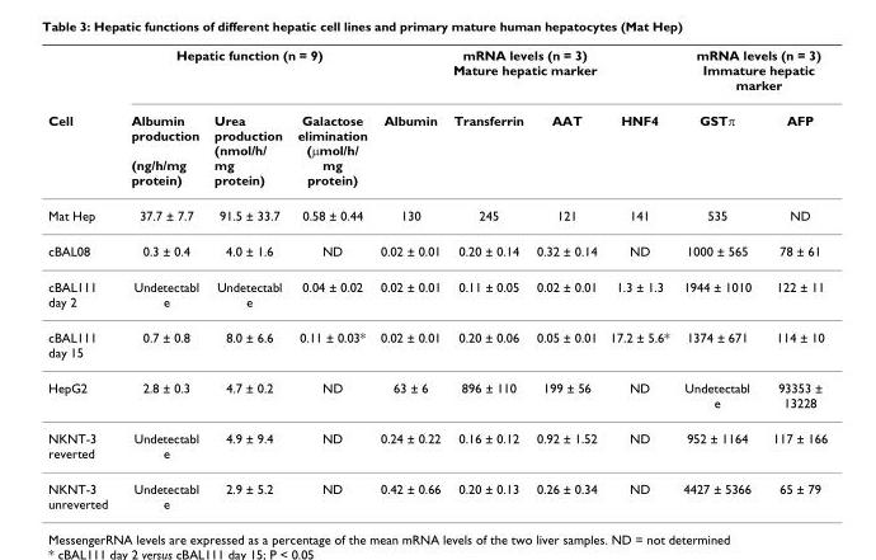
<table><thead><tr><td rowspan="2">Cell</td><td colspan="3">Hepatic function (n = 9)</td><td colspan="4">mRNA levels (n = 3) Mature hepatic marker</td><td colspan="2">mRNA levels (n = 3) Immature hepatic marker</td></tr><tr><td>Albumin production (ng/h/mg protein)</td><td>Urea production (nmol/h/ mg protein)</td><td>Galactose elimination (μmol/h/ mg protein)</td><td>Albumin</td><td>Transferrin</td><td>AAT</td><td>HNF4</td><td>GSTπ</td><td>AFP</td></tr></thead><tbody><tr><td>Mat Hep</td><td>37.7 ± 7.7</td><td>91.5 ± 33.7</td><td>0.58 ± 0.44</td><td>130</td><td>245</td><td>121</td><td>141</td><td>535</td><td>ND</td></tr><tr><td>cBAL08</td><td>0.3 ± 0.4</td><td>4.0 ± 1.6</td><td>ND</td><td>0.02 ± 0.01</td><td>0.20 ± 0.14</td><td>0.32 ± 0.14</td><td>ND</td><td>1000 ± 565</td><td>78 ± 61</td></tr><tr><td>cBAL111 day 2</td><td>Undetectabl e</td><td>Undetectabl e</td><td>0.04 ± 0.02</td><td>0.02 ± 0.01</td><td>0.11 ± 0.05</td><td>0.02 ± 0.01</td><td>1.3 ± 1.3</td><td>1944 ± 1010</td><td>122 ± 11</td></tr><tr><td>cBAL111 day 15</td><td>0.7 ± 0.8</td><td>8.0 ± 6.6</td><td>0.11 ± 0.03*</td><td>0.02 ± 0.01</td><td>0.20 ± 0.06</td><td>0.05 ± 0.01</td><td>17.2 ± 5.6*</td><td>1374 ± 671</td><td>114 ± 10</td></tr><tr><td>HepG2</td><td>2.8 ± 0.3</td><td>4.7 ± 0.2</td><td>ND</td><td>63 ± 6</td><td>896 ± 110</td><td>199 ± 56</td><td>ND</td><td>Undetectabl e</td><td>93353 ± 13228</td></tr><tr><td>NKNT-3 reverted</td><td>Undetectabl e</td><td>4.9 ± 9.4</td><td>ND</td><td>0.24 ± 0.22</td><td>0.16 ± 0.12</td><td>0.92 ± 1.52</td><td>ND</td><td>952 ± 1164</td><td>117 ± 166</td></tr><tr><td>NKNT-3 unreverted</td><td>Undetectabl e</td><td>2.9 ± 5.2</td><td>ND</td><td>0.42 ± 0.66</td><td>0.20 ± 0.13</td><td>0.26 ± 0.34</td><td>ND</td><td>4427 ± 5366</td><td>65 ± 79</td></tr></tbody></table>